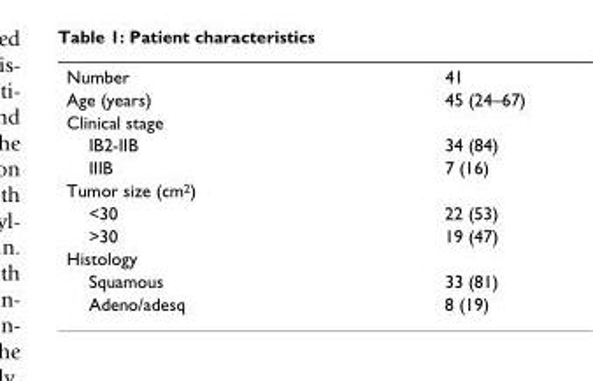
<table><tbody><tr><td>Number</td><td>41</td></tr><tr><td>Age (years)</td><td>45 (24–67)</td></tr><tr><td colspan="2">Clinical stage</td></tr><tr><td>IB2-IIB</td><td>34 (84)</td></tr><tr><td>IIIB</td><td>7 (16)</td></tr><tr><td colspan="2">Tumor size (cm2)</td></tr><tr><td>&lt;30</td><td>22 (53)</td></tr><tr><td>&gt;30</td><td>19 (47)</td></tr><tr><td colspan="2">Histology</td></tr><tr><td>Squamous</td><td>33 (81)</td></tr><tr><td>Adeno/adesq</td><td>8 (19)</td></tr></tbody></table>